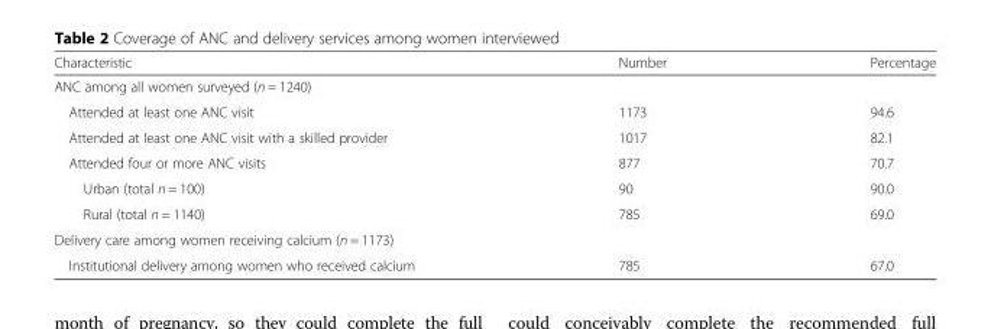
<table><thead><tr><td>Characteristic</td><td>Number</td><td>Percentage</td></tr></thead><tbody><tr><td colspan="3">ANC among all women surveyed (n = 1240)</td></tr><tr><td>Attended at least one ANC visit</td><td>1173</td><td>94.6</td></tr><tr><td>Attended at least one ANC visit with a skilled provider</td><td>1017</td><td>82.1</td></tr><tr><td>Attended four or more ANC visits</td><td>877</td><td>70.7</td></tr><tr><td>Urban (total n = 100)</td><td>90</td><td>90.0</td></tr><tr><td>Rural (total n = 1140)</td><td>785</td><td>69.0</td></tr><tr><td colspan="3">Delivery care among women receiving calcium (n = 1173)</td></tr><tr><td>Institutional delivery among women who received calcium</td><td>785</td><td>67.0</td></tr></tbody></table>